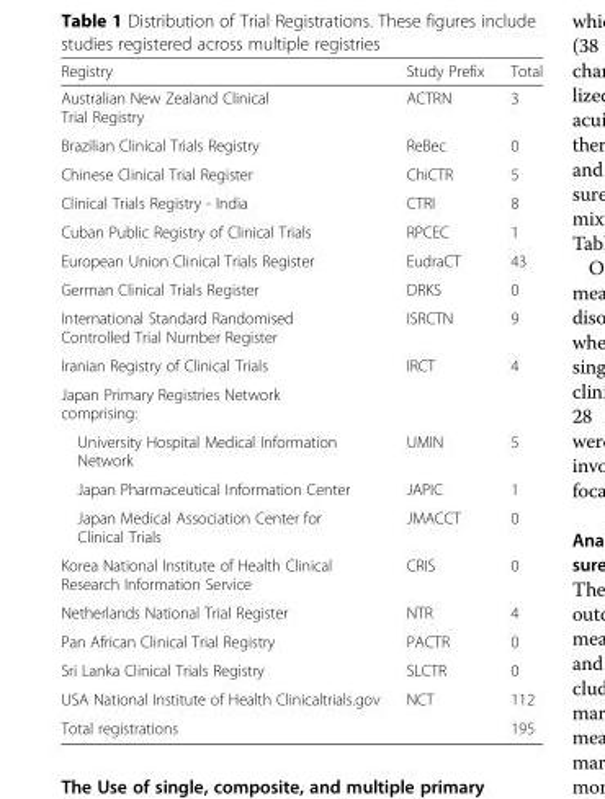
<table><thead><tr><td>Registry</td><td>Study Prefix</td><td>Total</td></tr></thead><tbody><tr><td>Australian New Zealand Clinical Trial Registry</td><td>ACTRN</td><td>3</td></tr><tr><td>Brazilian Clinical Trials Registry</td><td>ReBec</td><td>0</td></tr><tr><td>Chinese Clinical Trial Register</td><td>ChiCTR</td><td>5</td></tr><tr><td>Clinical Trials Registry - India</td><td>CTRI</td><td>8</td></tr><tr><td>Cuban Public Registry of Clinical Trials</td><td>RPCEC</td><td>1</td></tr><tr><td>European Union Clinical Trials Register</td><td>EudraCT</td><td>43</td></tr><tr><td>German Clinical Trials Register</td><td>DRKS</td><td>0</td></tr><tr><td>International Standard Randomised Controlled Trial Number Register</td><td>ISRCTN</td><td>9</td></tr><tr><td>Iranian Registry of Clinical Trials</td><td>IRCT</td><td>4</td></tr><tr><td colspan="3">Japan Primary Registries Network comprising:</td></tr><tr><td>University Hospital Medical Information Network</td><td>UMIN</td><td>5</td></tr><tr><td>Japan Pharmaceutical Information Center</td><td>JAPIC</td><td>1</td></tr><tr><td>Japan Medical Association Center for Clinical Trials</td><td>JMACCT</td><td>0</td></tr><tr><td>Korea National Institute of Health Clinical Research Information Service</td><td>CRIS</td><td>0</td></tr><tr><td>Netherlands National Trial Register</td><td>NTR</td><td>4</td></tr><tr><td>Pan African Clinical Trial Registry</td><td>PACTR</td><td>0</td></tr><tr><td>Sri Lanka Clinical Trials Registry</td><td>SLCTR</td><td>0</td></tr><tr><td>USA National Institute of Health Clinicaltrials.gov</td><td>NCT</td><td>112</td></tr><tr><td>Total registrations</td><td></td><td>195</td></tr></tbody></table>